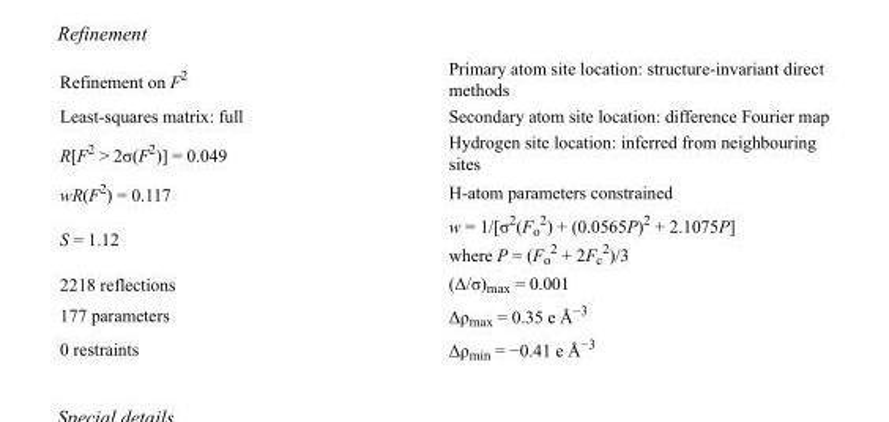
<table><tbody><tr><td>Refinement on F<sup>2</sup></td><td>Primary atom site location: structure-invariant direct methods</td></tr><tr><td>Least-squares matrix: full</td><td>Secondary atom site location: difference Fourier map</td></tr><tr><td>R[F<sup>2</sup> &gt; 2σ(F<sup>2</sup>)] = 0.049</td><td>Hydrogen site location: inferred from neighbouring sites</td></tr><tr><td>wR(F<sup>2</sup>) = 0.117</td><td>H-atom parameters constrained</td></tr><tr><td>S = 1.12</td><td>w = 1/[σ<sup>2</sup>(F<sub>o</sub> <sup>2</sup>) + (0.0565P)<sup>2</sup> + 2.1075P] where P = (F<sub>o</sub> <sup>2</sup> + 2F<sub>c</sub> <sup>2</sup>)/3</td></tr><tr><td>2218 reflections</td><td>(Δ/σ)<sub>max</sub> = 0.001</td></tr><tr><td>177 parameters</td><td>Δρ<sub>max</sub> = 0.35 e Å<sup>−3</sup></td></tr><tr><td>0 restraints</td><td>Δρ<sub>min</sub> = −0.41 e Å<sup>−3</sup></td></tr></tbody></table>